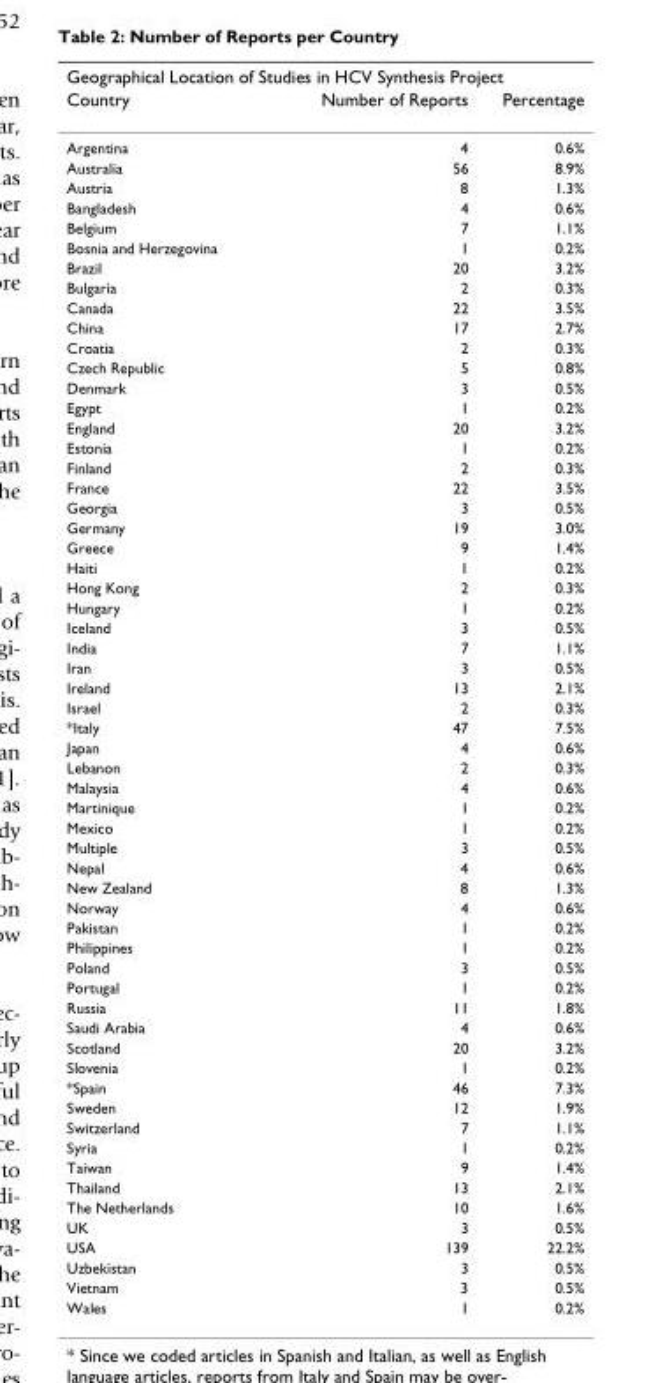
<table><thead><tr><td colspan="3">Geographical Location of Studies in HCV Synthesis Project</td></tr><tr><td>Country</td><td>Number of Reports</td><td>Percentage</td></tr></thead><tbody><tr><td>Argentina</td><td>4</td><td>0.6%</td></tr><tr><td>Australia</td><td>56</td><td>8.9%</td></tr><tr><td>Austria</td><td>8</td><td>1.3%</td></tr><tr><td>Bangladesh</td><td>4</td><td>0.6%</td></tr><tr><td>Belgium</td><td>7</td><td>1.1%</td></tr><tr><td>Bosnia and Herzegovina</td><td>1</td><td>0.2%</td></tr><tr><td>Brazil</td><td>20</td><td>3.2%</td></tr><tr><td>Bulgaria</td><td>2</td><td>0.3%</td></tr><tr><td>Canada</td><td>22</td><td>3.5%</td></tr><tr><td>China</td><td>17</td><td>2.7%</td></tr><tr><td>Croatia</td><td>2</td><td>0.3%</td></tr><tr><td>Czech Republic</td><td>5</td><td>0.8%</td></tr><tr><td>Denmark</td><td>3</td><td>0.5%</td></tr><tr><td>Egypt</td><td>1</td><td>0.2%</td></tr><tr><td>England</td><td>20</td><td>3.2%</td></tr><tr><td>Estonia</td><td>1</td><td>0.2%</td></tr><tr><td>Finland</td><td>2</td><td>0.3%</td></tr><tr><td>France</td><td>22</td><td>3.5%</td></tr><tr><td>Georgia</td><td>3</td><td>0.5%</td></tr><tr><td>Germany</td><td>19</td><td>3.0%</td></tr><tr><td>Greece</td><td>9</td><td>1.4%</td></tr><tr><td>Haiti</td><td>1</td><td>0.2%</td></tr><tr><td>Hong Kong</td><td>2</td><td>0.3%</td></tr><tr><td>Hungary</td><td>1</td><td>0.2%</td></tr><tr><td>Iceland</td><td>3</td><td>0.5%</td></tr><tr><td>India</td><td>7</td><td>1.1%</td></tr><tr><td>Iran</td><td>3</td><td>0.5%</td></tr><tr><td>Ireland</td><td>13</td><td>2.1%</td></tr><tr><td>Israel</td><td>2</td><td>0.3%</td></tr><tr><td>*Italy</td><td>47</td><td>7.5%</td></tr><tr><td>Japan</td><td>4</td><td>0.6%</td></tr><tr><td>Lebanon</td><td>2</td><td>0.3%</td></tr><tr><td>Malaysia</td><td>4</td><td>0.6%</td></tr><tr><td>Martinique</td><td>1</td><td>0.2%</td></tr><tr><td>Mexico</td><td>1</td><td>0.2%</td></tr><tr><td>Multiple</td><td>3</td><td>0.5%</td></tr><tr><td>Nepal</td><td>4</td><td>0.6%</td></tr><tr><td>New Zealand</td><td>8</td><td>1.3%</td></tr><tr><td>Norway</td><td>4</td><td>0.6%</td></tr><tr><td>Pakistan</td><td>1</td><td>0.2%</td></tr><tr><td>Philippines</td><td>1</td><td>0.2%</td></tr><tr><td>Poland</td><td>3</td><td>0.5%</td></tr><tr><td>Portugal</td><td>1</td><td>0.2%</td></tr><tr><td>Russia</td><td>11</td><td>1.8%</td></tr><tr><td>Saudi Arabia</td><td>4</td><td>0.6%</td></tr><tr><td>Scotland</td><td>20</td><td>3.2%</td></tr><tr><td>Slovenia</td><td>1</td><td>0.2%</td></tr><tr><td>*Spain</td><td>46</td><td>7.3%</td></tr><tr><td>Sweden</td><td>12</td><td>1.9%</td></tr><tr><td>Switzerland</td><td>7</td><td>1.1%</td></tr><tr><td>Syria</td><td>1</td><td>0.2%</td></tr><tr><td>Taiwan</td><td>9</td><td>1.4%</td></tr><tr><td>Thailand</td><td>13</td><td>2.1%</td></tr><tr><td>The Netherlands</td><td>10</td><td>1.6%</td></tr><tr><td>UK</td><td>3</td><td>0.5%</td></tr><tr><td>USA</td><td>139</td><td>22.2%</td></tr><tr><td>Uzbekistan</td><td>3</td><td>0.5%</td></tr><tr><td>Vietnam</td><td>3</td><td>0.5%</td></tr><tr><td>Wales</td><td>1</td><td>0.2%</td></tr></tbody></table>